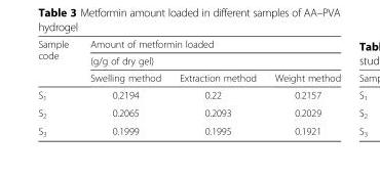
<table><thead><tr><td rowspan="3">Sample code</td><td rowspan="2" colspan="3">Amount of metformin loaded (g/g of dry gel)</td></tr><tr></tr><tr><td>Swelling method</td><td>Extraction method</td><td>Weight method</td></tr></thead><tbody><tr><td>S<sub>1</sub></td><td>0.2194</td><td>0.22</td><td>0.2157</td></tr><tr><td>S<sub>2</sub></td><td>0.2065</td><td>0.2093</td><td>0.2029</td></tr><tr><td>S<sub>3</sub></td><td>0.1999</td><td>0.1995</td><td>0.1921</td></tr></tbody></table>